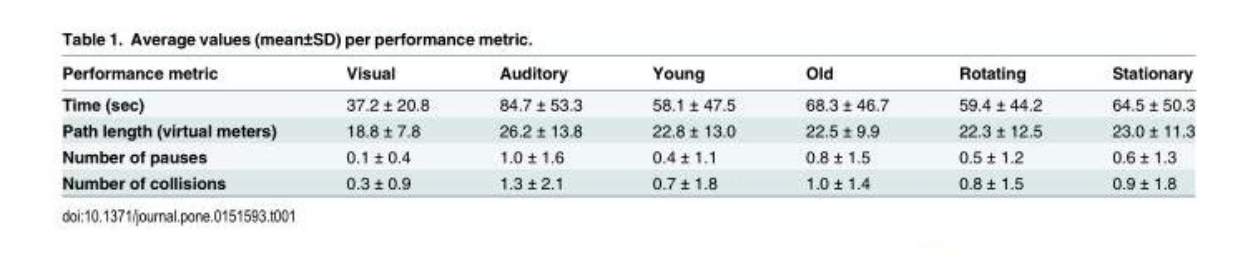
<table><thead><tr><td>Performance metric</td><td>Visual</td><td>Auditory</td><td>Young</td><td>Old</td><td>Rotating</td><td>Stationary</td></tr></thead><tbody><tr><td>Time (sec)</td><td>37.2 ± 20.8</td><td>84.7 ± 53.3</td><td>58.1 ± 47.5</td><td>68.3 ± 46.7</td><td>59.4 ± 44.2</td><td>64.5 ± 50.3</td></tr><tr><td>Path length (virtual meters)</td><td>18.8 ± 7.8</td><td>26.2 ± 13.8</td><td>22.8 ± 13.0</td><td>22.5 ± 9.9</td><td>22.3 ± 12.5</td><td>23.0 ± 11.3</td></tr><tr><td>Number of pauses</td><td>0.1 ± 0.4</td><td>1.0 ± 1.6</td><td>0.4 ± 1.1</td><td>0.8 ± 1.5</td><td>0.5 ± 1.2</td><td>0.6 ± 1.3</td></tr><tr><td>Number of collisions</td><td>0.3 ± 0.9</td><td>1.3 ± 2.1</td><td>0.7 ± 1.8</td><td>1.0 ± 1.4</td><td>0.8 ± 1.5</td><td>0.9 ± 1.8</td></tr></tbody></table>